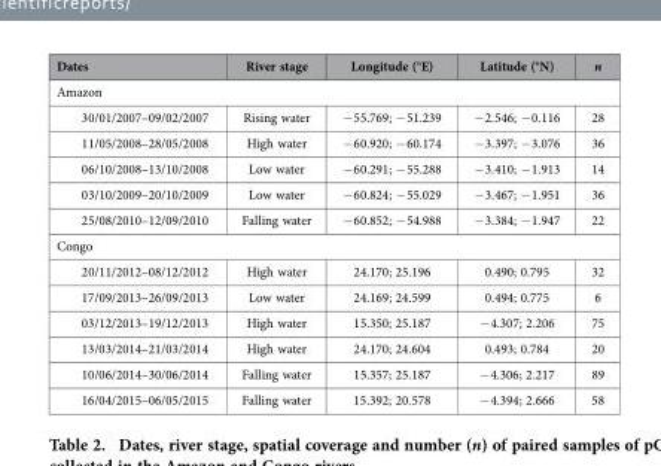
<table><thead><tr><td>Dates</td><td>River stage</td><td>Longitude (°E)</td><td>Latitude (°N)</td><td>n</td></tr></thead><tbody><tr><td colspan="5">Amazon</td></tr><tr><td>30/01/2007–09/02/2007</td><td>Rising water</td><td>− 55.769; − 51.239</td><td>− 2.546; − 0.116</td><td>28</td></tr><tr><td>11/05/2008–28/05/2008</td><td>High water</td><td>− 60.920; − 60.174</td><td>− 3.397; − 3.076</td><td>36</td></tr><tr><td>06/10/2008–13/10/2008</td><td>Low water</td><td>− 60.291; − 55.288</td><td>− 3.410; − 1.913</td><td>14</td></tr><tr><td>03/10/2009–20/10/2009</td><td>Low water</td><td>− 60.824; − 55.029</td><td>− 3.467; − 1.951</td><td>36</td></tr><tr><td>25/08/2010–12/09/2010</td><td>Falling water</td><td>− 60.852; − 54.988</td><td>− 3.384; − 1.947</td><td>22</td></tr><tr><td colspan="5">Congo</td></tr><tr><td>20/11/2012–08/12/2012</td><td>High water</td><td>24.170; 25.196</td><td>0.490; 0.795</td><td>32</td></tr><tr><td>17/09/2013–26/09/2013</td><td>Low water</td><td>24.169; 24.599</td><td>0.494; 0.775</td><td>6</td></tr><tr><td>03/12/2013–19/12/2013</td><td>High water</td><td>15.350; 25.187</td><td>− 4.307; 2.206</td><td>75</td></tr><tr><td>13/03/2014–21/03/2014</td><td>High water</td><td>24.170; 24.604</td><td>0.493; 0.784</td><td>20</td></tr><tr><td>10/06/2014–30/06/2014</td><td>Falling water</td><td>15.357; 25.187</td><td>− 4.306; 2.217</td><td>89</td></tr><tr><td>16/04/2015–06/05/2015</td><td>Falling water</td><td>15.392; 20.578</td><td>− 4.394; 2.666</td><td>58</td></tr></tbody></table>